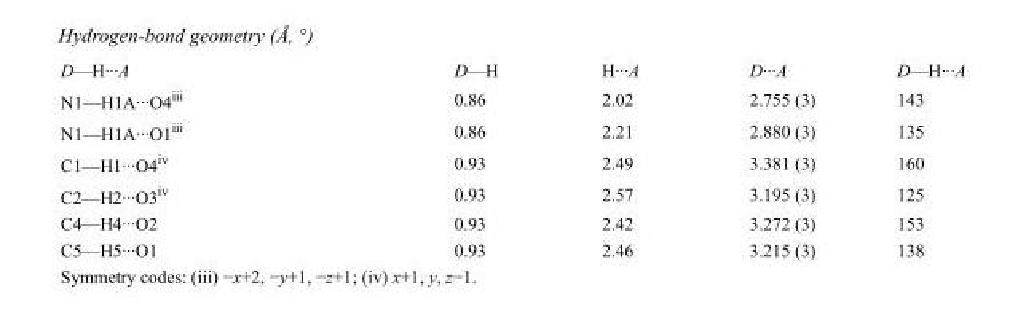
<table><tbody><tr><td>D—H···A</td><td>D—H</td><td>H···A</td><td>D···A</td><td>D—H···A</td></tr><tr><td>N1—H1A···O4<sup>iii</sup></td><td>0.86</td><td>2.02</td><td>2.755 (3)</td><td>143</td></tr><tr><td>N1—H1A···O1<sup>iii</sup></td><td>0.86</td><td>2.21</td><td>2.880 (3)</td><td>135</td></tr><tr><td>C1—H1···O4<sup>iv</sup></td><td>0.93</td><td>2.49</td><td>3.381 (3)</td><td>160</td></tr><tr><td>C2—H2···O3<sup>iv</sup></td><td>0.93</td><td>2.57</td><td>3.195 (3)</td><td>125</td></tr><tr><td>C4—H4···O2</td><td>0.93</td><td>2.42</td><td>3.272 (3)</td><td>153</td></tr><tr><td>C5—H5···O1</td><td>0.93</td><td>2.46</td><td>3.215 (3)</td><td>138</td></tr></tbody></table>